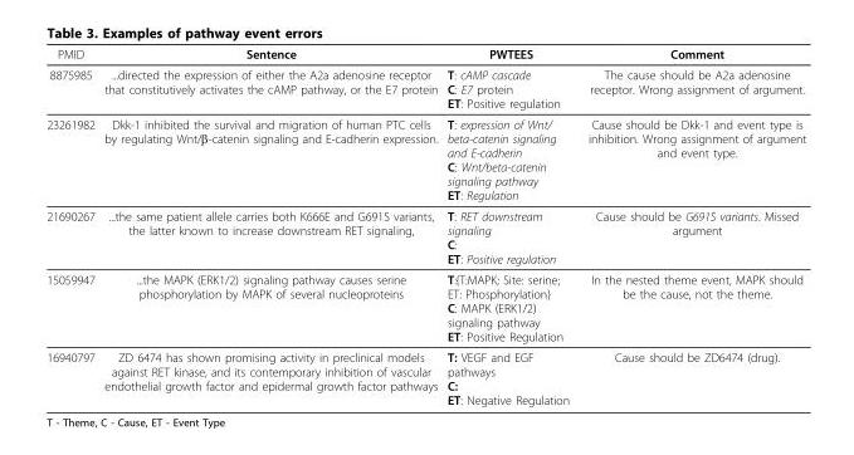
<table><thead><tr><td>PMID</td><td>Sentence</td><td>PWTEES</td><td>Comment</td></tr></thead><tbody><tr><td>8875985</td><td>...directed the expression of either the A2a adenosine receptor that constitutively activates the cAMP pathway, or the E7 protein</td><td>T: cAMP cascade C: E7 protein ET: Positive regulation</td><td>The cause should be A2a adenosine receptor. Wrong assignment of argument.</td></tr><tr><td>23261982</td><td>Dkk-1 inhibited the survival and migration of human PTC cells by regulating Wnt/β-catenin signaling and E-cadherin expression.</td><td>T: expression of Wnt/ beta-catenin signaling and E-cadherin C: Wnt/beta-catenin signaling pathway ET: Regulation</td><td>Cause should be Dkk-1 and event type is inhibition. Wrong assignment of argument and event type.</td></tr><tr><td>21690267</td><td>...the same patient allele carries both K666E and G691S variants, the latter known to increase downstream RET signaling,</td><td>T: RET downstream signaling C: ET: Positive regulation</td><td>Cause should be G691S variants. Missed argument</td></tr><tr><td>15059947</td><td>...the MAPK (ERK1/2) signaling pathway causes serine phosphorylation by MAPK of several nucleoproteins</td><td>T:{T:MAPK; Site: serine; ET: Phosphorylation} C: MAPK (ERK1/2) signaling pathway ET: Positive Regulation</td><td>In the nested theme event, MAPK should be the cause, not the theme.</td></tr><tr><td>16940797</td><td>ZD 6474 has shown promising activity in preclinical models against RET kinase, and its contemporary inhibition of vascular endothelial growth factor and epidermal growth factor pathways</td><td>T: VEGF and EGF pathways C: ET: Negative Regulation</td><td>Cause should be ZD6474 (drug).</td></tr></tbody></table>